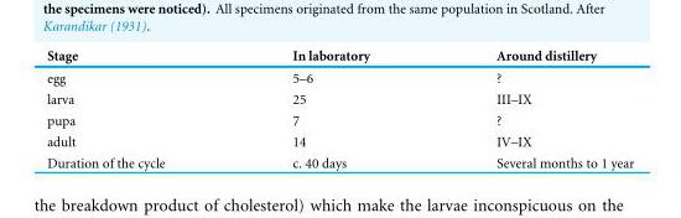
<table><thead><tr><td>Stage</td><td>In laboratory</td><td>Around distillery</td></tr></thead><tbody><tr><td>egg</td><td>5–6</td><td>?</td></tr><tr><td>larva</td><td>25</td><td>III–IX</td></tr><tr><td>pupa</td><td>7</td><td>?</td></tr><tr><td>adult</td><td>14</td><td>IV–IX</td></tr><tr><td>Duration of the cycle</td><td>c. 40 days</td><td>Several months to 1 year</td></tr></tbody></table>